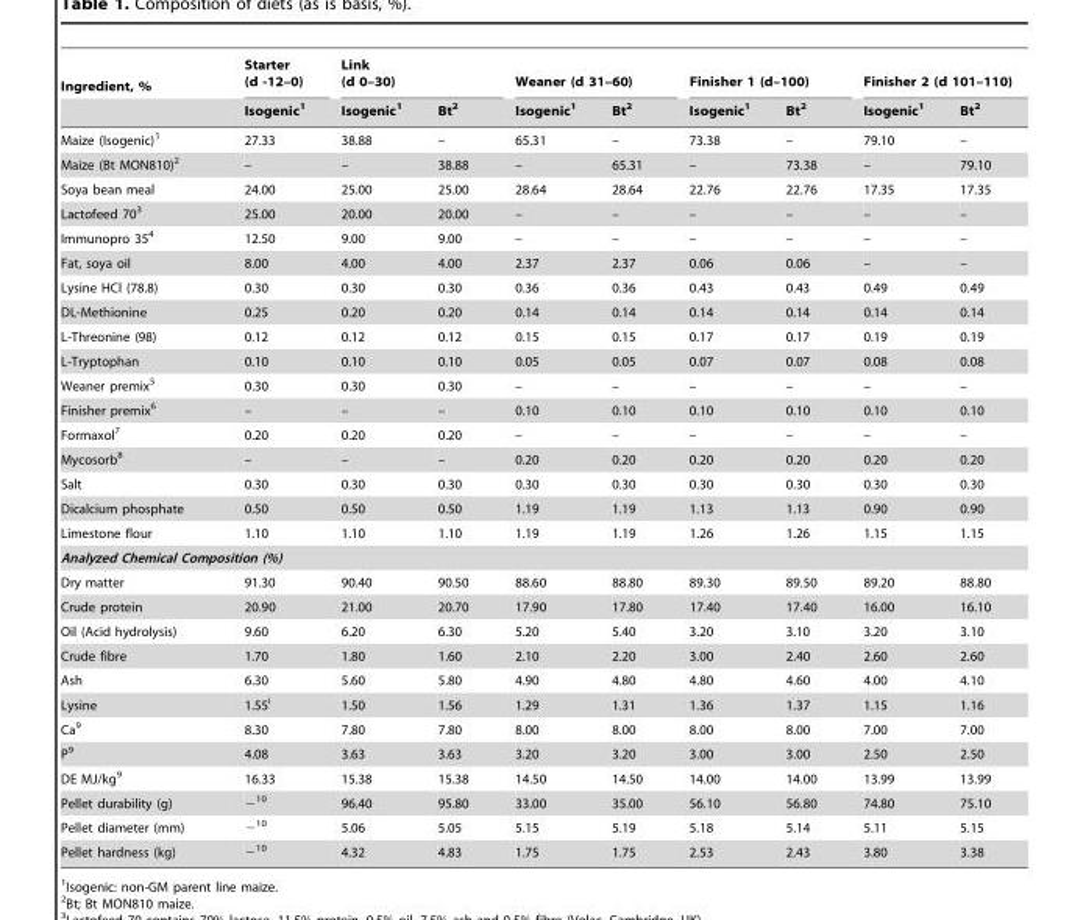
<table><thead><tr><td rowspan="2">Ingredient, %</td><td rowspan="2">Starter (d -12–0) Isogenic<sup>1</sup></td><td colspan="2">Link (d 0–30)</td><td colspan="2">Weaner (d 31–60)</td><td colspan="2">Finisher 1 (d–100)</td><td colspan="2">Finisher 2 (d 101–110)</td></tr><tr><td>Isogenic<sup>1</sup></td><td>Bt<sup>2</sup></td><td>Isogenic<sup>1</sup></td><td>Bt<sup>2</sup></td><td>Isogenic<sup>1</sup></td><td>Bt<sup>2</sup></td><td>Isogenic<sup>1</sup></td><td>Bt<sup>2</sup></td></tr></thead><tbody><tr><td>Maize (Isogenic)<sup>1</sup></td><td>27.33</td><td>38.88</td><td>–</td><td>65.31</td><td>–</td><td>73.38</td><td>–</td><td>79.10</td><td>–</td></tr><tr><td>Maize (Bt MON810)<sup>2</sup></td><td>–</td><td>–</td><td>38.88</td><td>–</td><td>65.31</td><td>–</td><td>73.38</td><td>–</td><td>79.10</td></tr><tr><td>Soya bean meal</td><td>24.00</td><td>25.00</td><td>25.00</td><td>28.64</td><td>28.64</td><td>22.76</td><td>22.76</td><td>17.35</td><td>17.35</td></tr><tr><td>Lactofeed 70<sup>3</sup></td><td>25.00</td><td>20.00</td><td>20.00</td><td>–</td><td>–</td><td>–</td><td>–</td><td>–</td><td>–</td></tr><tr><td>Immunopro 35<sup>4</sup></td><td>12.50</td><td>9.00</td><td>9.00</td><td>–</td><td>–</td><td>–</td><td>–</td><td>–</td><td>–</td></tr><tr><td>Fat, soya oil</td><td>8.00</td><td>4.00</td><td>4.00</td><td>2.37</td><td>2.37</td><td>0.06</td><td>0.06</td><td>–</td><td>–</td></tr><tr><td>Lysine HCl (78.8)</td><td>0.30</td><td>0.30</td><td>0.30</td><td>0.36</td><td>0.36</td><td>0.43</td><td>0.43</td><td>0.49</td><td>0.49</td></tr><tr><td>DL-Methionine</td><td>0.25</td><td>0.20</td><td>0.20</td><td>0.14</td><td>0.14</td><td>0.14</td><td>0.14</td><td>0.14</td><td>0.14</td></tr><tr><td>L-Threonine (98)</td><td>0.12</td><td>0.12</td><td>0.12</td><td>0.15</td><td>0.15</td><td>0.17</td><td>0.17</td><td>0.19</td><td>0.19</td></tr><tr><td>L-Tryptophan</td><td>0.10</td><td>0.10</td><td>0.10</td><td>0.05</td><td>0.05</td><td>0.07</td><td>0.07</td><td>0.08</td><td>0.08</td></tr><tr><td>Weaner premix<sup>5</sup></td><td>0.30</td><td>0.30</td><td>0.30</td><td>–</td><td>–</td><td>–</td><td>–</td><td>–</td><td>–</td></tr><tr><td>Finisher premix<sup>6</sup></td><td>–</td><td>–</td><td>–</td><td>0.10</td><td>0.10</td><td>0.10</td><td>0.10</td><td>0.10</td><td>0.10</td></tr><tr><td>Formaxol<sup>7</sup></td><td>0.20</td><td>0.20</td><td>0.20</td><td>–</td><td>–</td><td>–</td><td>–</td><td>–</td><td>–</td></tr><tr><td>Mycosorb<sup>8</sup></td><td>–</td><td>–</td><td>–</td><td>0.20</td><td>0.20</td><td>0.20</td><td>0.20</td><td>0.20</td><td>0.20</td></tr><tr><td>Salt</td><td>0.30</td><td>0.30</td><td>0.30</td><td>0.30</td><td>0.30</td><td>0.30</td><td>0.30</td><td>0.30</td><td>0.30</td></tr><tr><td>Dicalcium phosphate</td><td>0.50</td><td>0.50</td><td>0.50</td><td>1.19</td><td>1.19</td><td>1.13</td><td>1.13</td><td>0.90</td><td>0.90</td></tr><tr><td>Limestone flour</td><td>1.10</td><td>1.10</td><td>1.10</td><td>1.19</td><td>1.19</td><td>1.26</td><td>1.26</td><td>1.15</td><td>1.15</td></tr><tr><td colspan="10">Analyzed Chemical Composition (%)</td></tr><tr><td>Dry matter</td><td>91.30</td><td>90.40</td><td>90.50</td><td>88.60</td><td>88.80</td><td>89.30</td><td>89.50</td><td>89.20</td><td>88.80</td></tr><tr><td>Crude protein</td><td>20.90</td><td>21.00</td><td>20.70</td><td>17.90</td><td>17.80</td><td>17.40</td><td>17.40</td><td>16.00</td><td>16.10</td></tr><tr><td>Oil (Acid hydrolysis)</td><td>9.60</td><td>6.20</td><td>6.30</td><td>5.20</td><td>5.40</td><td>3.20</td><td>3.10</td><td>3.20</td><td>3.10</td></tr><tr><td>Crude fibre</td><td>1.70</td><td>1.80</td><td>1.60</td><td>2.10</td><td>2.20</td><td>3.00</td><td>2.40</td><td>2.60</td><td>2.60</td></tr><tr><td>Ash</td><td>6.30</td><td>5.60</td><td>5.80</td><td>4.90</td><td>4.80</td><td>4.80</td><td>4.60</td><td>4.00</td><td>4.10</td></tr><tr><td>Lysine</td><td>1.55<sup>i</sup></td><td>1.50</td><td>1.56</td><td>1.29</td><td>1.31</td><td>1.36</td><td>1.37</td><td>1.15</td><td>1.16</td></tr><tr><td>Ca<sup>9</sup></td><td>8.30</td><td>7.80</td><td>7.80</td><td>8.00</td><td>8.00</td><td>8.00</td><td>8.00</td><td>7.00</td><td>7.00</td></tr><tr><td>P<sup>9</sup></td><td>4.08</td><td>3.63</td><td>3.63</td><td>3.20</td><td>3.20</td><td>3.00</td><td>3.00</td><td>2.50</td><td>2.50</td></tr><tr><td>DE MJ/kg<sup>9</sup></td><td>16.33</td><td>15.38</td><td>15.38</td><td>14.50</td><td>14.50</td><td>14.00</td><td>14.00</td><td>13.99</td><td>13.99</td></tr><tr><td>Pellet durability (g)</td><td>−10</td><td>96.40</td><td>95.80</td><td>33.00</td><td>35.00</td><td>56.10</td><td>56.80</td><td>74.80</td><td>75.10</td></tr><tr><td>Pellet diameter (mm)</td><td>−10</td><td>5.06</td><td>5.05</td><td>5.15</td><td>5.19</td><td>5.18</td><td>5.14</td><td>5.11</td><td>5.15</td></tr><tr><td>Pellet hardness (kg)</td><td>−10</td><td>4.32</td><td>4.83</td><td>1.75</td><td>1.75</td><td>2.53</td><td>2.43</td><td>3.80</td><td>3.38</td></tr></tbody></table>